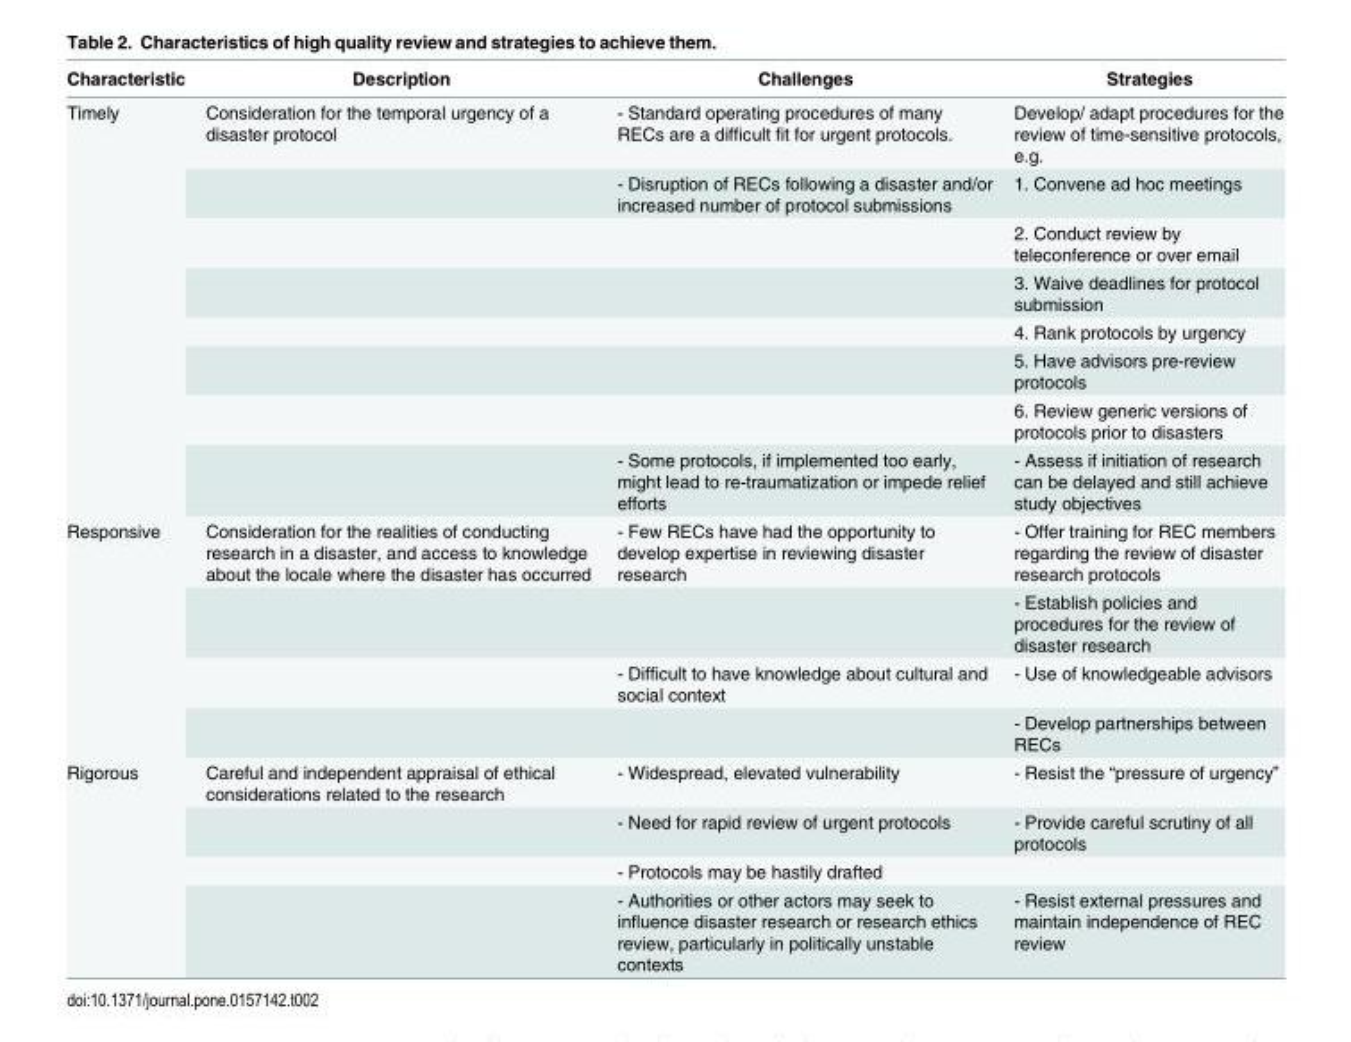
<table><thead><tr><td>Characteristic</td><td>Description</td><td>Challenges</td><td>Strategies</td></tr></thead><tbody><tr><td rowspan="8">Timely</td><td>Consideration for the temporal urgency of a disaster protocol</td><td>- Standard operating procedures of many RECs are a difficult fit for urgent protocols.</td><td>Develop/ adapt procedures for the review of time-sensitive protocols, e.g.</td></tr><tr><td></td><td>- Disruption of RECs following a disaster and/or increased number of protocol submissions</td><td>1. Convene ad hoc meetings</td></tr><tr><td></td><td></td><td>2. Conduct review by teleconference or over email</td></tr><tr><td></td><td></td><td>3. Waive deadlines for protocol submission</td></tr><tr><td></td><td></td><td>4. Rank protocols by urgency</td></tr><tr><td></td><td></td><td>5. Have advisors pre-review protocols</td></tr><tr><td></td><td></td><td>6. Review generic versions of protocols prior to disasters</td></tr><tr><td></td><td>- Some protocols, if implemented too early, might lead to re-traumatization or impede relief efforts</td><td>- Assess if initiation of research can be delayed and still achieve study objectives</td></tr><tr><td rowspan="4">Responsive</td><td>Consideration for the realities of conducting research in a disaster, and access to knowledge about the locale where the disaster has occurred</td><td>- Few RECs have had the opportunity to develop expertise in reviewing disaster research</td><td>- Offer training for REC members regarding the review of disaster research protocols</td></tr><tr><td></td><td></td><td>- Establish policies and procedures for the review of disaster research</td></tr><tr><td></td><td>- Difficult to have knowledge about cultural and social context</td><td>- Use of knowledgeable advisors</td></tr><tr><td></td><td></td><td>- Develop partnerships between RECs</td></tr><tr><td rowspan="4">Rigorous</td><td>Careful and independent appraisal of ethical considerations related to the research</td><td>- Widespread, elevated vulnerability</td><td>- Resist the “pressure of urgency”</td></tr><tr><td></td><td>- Need for rapid review of urgent protocols</td><td>- Provide careful scrutiny of all protocols</td></tr><tr><td></td><td>- Protocols may be hastily drafted</td><td></td></tr><tr><td></td><td>- Authorities or other actors may seek to influence disaster research or research ethics review, particularly in politically unstable contexts</td><td>- Resist external pressures and maintain independence of REC review</td></tr></tbody></table>